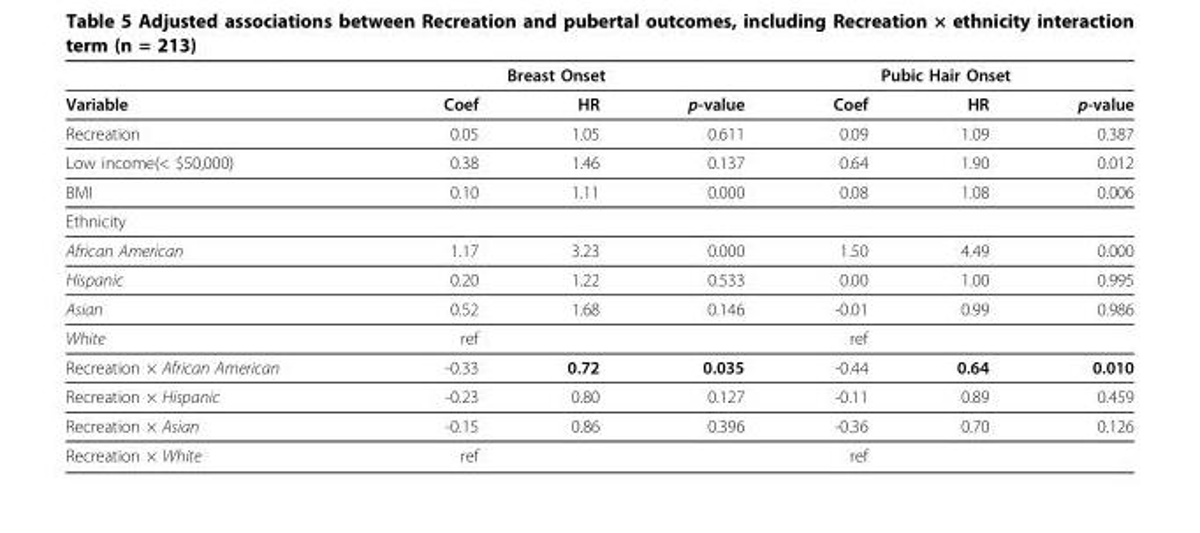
<table><thead><tr><td rowspan="2">Variable</td><td colspan="3">Breast Onset</td><td colspan="3">Pubic Hair Onset</td></tr><tr><td>Coef</td><td>HR</td><td>p-value</td><td>Coef</td><td>HR</td><td>p-value</td></tr></thead><tbody><tr><td>Recreation</td><td>0.05</td><td>1.05</td><td>0.611</td><td>0.09</td><td>1.09</td><td>0.387</td></tr><tr><td>Low income(&lt; $50,000)</td><td>0.38</td><td>1.46</td><td>0.137</td><td>0.64</td><td>1.90</td><td>0.012</td></tr><tr><td>BMI</td><td>0.10</td><td>1.11</td><td>0.000</td><td>0.08</td><td>1.08</td><td>0.006</td></tr><tr><td colspan="7">Ethnicity</td></tr><tr><td>African American</td><td>1.17</td><td>3.23</td><td>0.000</td><td>1.50</td><td>4.49</td><td>0.000</td></tr><tr><td>Hispanic</td><td>0.20</td><td>1.22</td><td>0.533</td><td>0.00</td><td>1.00</td><td>0.995</td></tr><tr><td>Asian</td><td>0.52</td><td>1.68</td><td>0.146</td><td>-0.01</td><td>0.99</td><td>0.986</td></tr><tr><td>White</td><td>ref</td><td></td><td></td><td>ref</td><td></td><td></td></tr><tr><td>Recreation × African American</td><td>-0.33</td><td>0.72</td><td>0.035</td><td>-0.44</td><td>0.64</td><td>0.010</td></tr><tr><td>Recreation × Hispanic</td><td>-0.23</td><td>0.80</td><td>0.127</td><td>-0.11</td><td>0.89</td><td>0.459</td></tr><tr><td>Recreation × Asian</td><td>-0.15</td><td>0.86</td><td>0.396</td><td>-0.36</td><td>0.70</td><td>0.126</td></tr><tr><td>Recreation × White</td><td>ref</td><td></td><td></td><td>ref</td><td></td><td></td></tr></tbody></table>